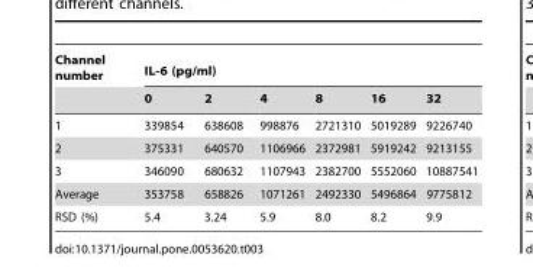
<table><thead><tr><td rowspan="2">Channel number</td><td colspan="6">IL-6 (pg/ml)</td></tr><tr><td>0</td><td>2</td><td>4</td><td>8</td><td>16</td><td>32</td></tr></thead><tbody><tr><td>1</td><td>339854</td><td>638608</td><td>998876</td><td>2721310</td><td>5019289</td><td>9226740</td></tr><tr><td>2</td><td>375331</td><td>640570</td><td>1106966</td><td>2372981</td><td>5919242</td><td>9213155</td></tr><tr><td>3</td><td>346090</td><td>680632</td><td>1107943</td><td>2382700</td><td>5552060</td><td>10887541</td></tr><tr><td>Average</td><td>353758</td><td>658826</td><td>1071261</td><td>2492330</td><td>5496864</td><td>9775812</td></tr><tr><td>RSD (%)</td><td>5.4</td><td>3.24</td><td>5.9</td><td>8.0</td><td>8.2</td><td>9.9</td></tr></tbody></table>